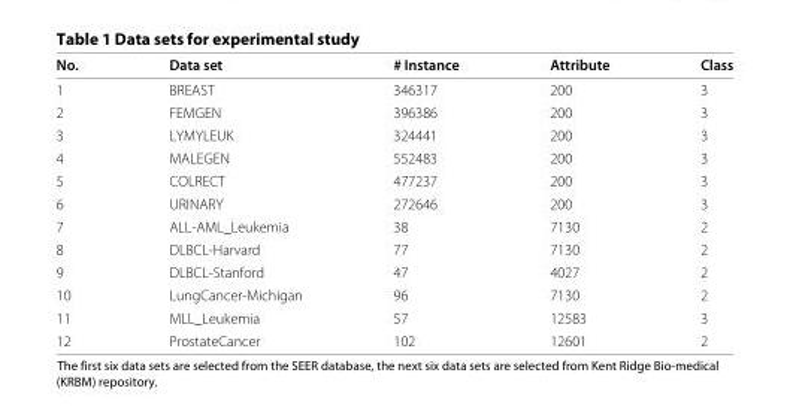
<table><thead><tr><td>No.</td><td>Data set</td><td># Instance</td><td>Attribute</td><td>Class</td></tr></thead><tbody><tr><td>1</td><td>BREAST</td><td>346317</td><td>200</td><td>3</td></tr><tr><td>2</td><td>FEMGEN</td><td>396386</td><td>200</td><td>3</td></tr><tr><td>3</td><td>LYMYLEUK</td><td>324441</td><td>200</td><td>3</td></tr><tr><td>4</td><td>MALEGEN</td><td>552483</td><td>200</td><td>3</td></tr><tr><td>5</td><td>COLRECT</td><td>477237</td><td>200</td><td>3</td></tr><tr><td>6</td><td>URINARY</td><td>272646</td><td>200</td><td>3</td></tr><tr><td>7</td><td>ALL-AML_Leukemia</td><td>38</td><td>7130</td><td>2</td></tr><tr><td>8</td><td>DLBCL-Harvard</td><td>77</td><td>7130</td><td>2</td></tr><tr><td>9</td><td>DLBCL-Stanford</td><td>47</td><td>4027</td><td>2</td></tr><tr><td>10</td><td>LungCancer-Michigan</td><td>96</td><td>7130</td><td>2</td></tr><tr><td>11</td><td>MLL_Leukemia</td><td>57</td><td>12583</td><td>3</td></tr><tr><td>12</td><td>ProstateCancer</td><td>102</td><td>12601</td><td>2</td></tr></tbody></table>